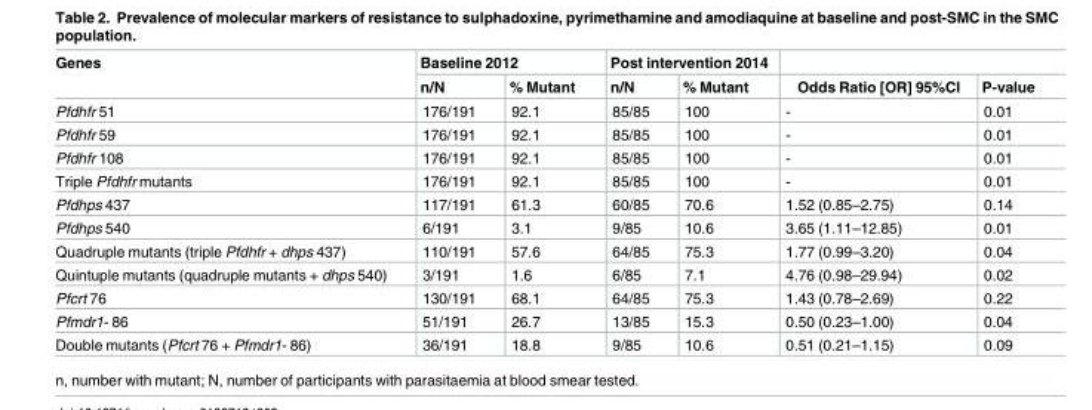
<table><thead><tr><td rowspan="2">Genes</td><td colspan="2">Baseline 2012</td><td colspan="2">Post intervention 2014</td><td rowspan="2">Odds Ratio [OR] 95%CI</td><td rowspan="2">P-value</td></tr><tr><td>n/N</td><td>% Mutant</td><td>n/N</td><td>% Mutant</td></tr></thead><tbody><tr><td>Pfdhfr 51</td><td>176/191</td><td>92.1</td><td>85/85</td><td>100</td><td>-</td><td>0.01</td></tr><tr><td>Pfdhfr 59</td><td>176/191</td><td>92.1</td><td>85/85</td><td>100</td><td>-</td><td>0.01</td></tr><tr><td>Pfdhfr 108</td><td>176/191</td><td>92.1</td><td>85/85</td><td>100</td><td>-</td><td>0.01</td></tr><tr><td>Triple Pfdhfr mutants</td><td>176/191</td><td>92.1</td><td>85/85</td><td>100</td><td>-</td><td>0.01</td></tr><tr><td>Pfdhps 437</td><td>117/191</td><td>61.3</td><td>60/85</td><td>70.6</td><td>1.52 (0.85–2.75)</td><td>0.14</td></tr><tr><td>Pfdhps 540</td><td>6/191</td><td>3.1</td><td>9/85</td><td>10.6</td><td>3.65 (1.11–12.85)</td><td>0.01</td></tr><tr><td>Quadruple mutants (triple Pfdhfr + dhps 437)</td><td>110/191</td><td>57.6</td><td>64/85</td><td>75.3</td><td>1.77 (0.99–3.20)</td><td>0.04</td></tr><tr><td>Quintuple mutants (quadruple mutants + dhps 540)</td><td>3/191</td><td>1.6</td><td>6/85</td><td>7.1</td><td>4.76 (0.98–29.94)</td><td>0.02</td></tr><tr><td>Pfcrt 76</td><td>130/191</td><td>68.1</td><td>64/85</td><td>75.3</td><td>1.43 (0.78–2.69)</td><td>0.22</td></tr><tr><td>Pfmdr1- 86</td><td>51/191</td><td>26.7</td><td>13/85</td><td>15.3</td><td>0.50 (0.23–1.00)</td><td>0.04</td></tr><tr><td>Double mutants (Pfcrt 76 + Pfmdr1- 86)</td><td>36/191</td><td>18.8</td><td>9/85</td><td>10.6</td><td>0.51 (0.21–1.15)</td><td>0.09</td></tr></tbody></table>